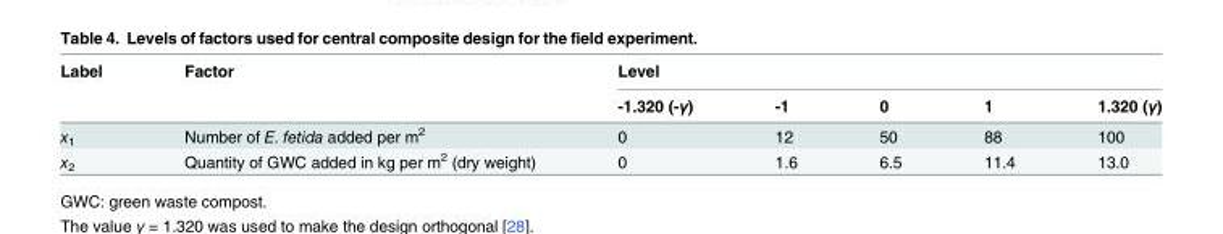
<table><thead><tr><td rowspan="2">Label</td><td rowspan="2">Factor</td><td colspan="5">Level</td></tr><tr><td>-1.320 (-γ)</td><td>-1</td><td>0</td><td>1</td><td>1.320 (γ)</td></tr></thead><tbody><tr><td>x<sub>1</sub></td><td>Number of E. fetida added per m<sup>2</sup></td><td>0</td><td>12</td><td>50</td><td>88</td><td>100</td></tr><tr><td>x<sub>2</sub></td><td>Quantity of GWC added in kg per m<sup>2</sup> (dry weight)</td><td>0</td><td>1.6</td><td>6.5</td><td>11.4</td><td>13.0</td></tr></tbody></table>